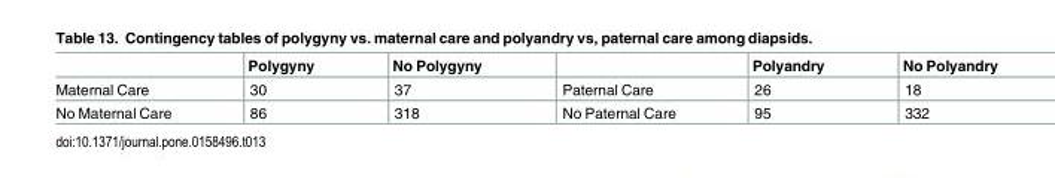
<table><thead><tr><td></td><td>Polygyny</td><td>No Polygyny</td><td></td><td>Polyandry</td><td>No Polyandry</td></tr></thead><tbody><tr><td>Maternal Care</td><td>30</td><td>37</td><td>Paternal Care</td><td>26</td><td>18</td></tr><tr><td>No Maternal Care</td><td>86</td><td>318</td><td>No Paternal Care</td><td>95</td><td>332</td></tr></tbody></table>